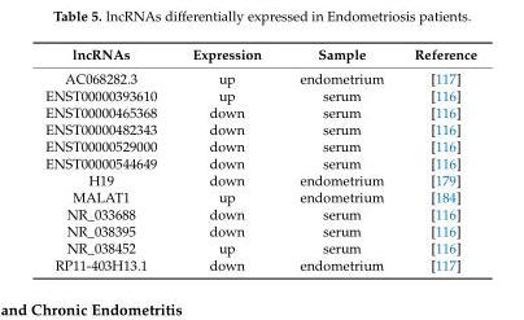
<table><thead><tr><td>lncRNAs</td><td>Expression</td><td>Sample</td><td>Reference</td></tr></thead><tbody><tr><td>AC068282.3</td><td>up</td><td>endometrium</td><td>[117]</td></tr><tr><td>ENST00000393610</td><td>up</td><td>serum</td><td>[116]</td></tr><tr><td>ENST00000465368</td><td>down</td><td>serum</td><td>[116]</td></tr><tr><td>ENST00000482343</td><td>down</td><td>serum</td><td>[116]</td></tr><tr><td>ENST00000529000</td><td>down</td><td>serum</td><td>[116]</td></tr><tr><td>ENST00000544649</td><td>down</td><td>serum</td><td>[116]</td></tr><tr><td>H19</td><td>down</td><td>endometrium</td><td>[179]</td></tr><tr><td>MALAT1</td><td>up</td><td>endometrium</td><td>[184]</td></tr><tr><td>NR_033688</td><td>down</td><td>serum</td><td>[116]</td></tr><tr><td>NR_038395</td><td>down</td><td>serum</td><td>[116]</td></tr><tr><td>NR_038452</td><td>up</td><td>serum</td><td>[116]</td></tr><tr><td>RP11-403H13.1</td><td>down</td><td>endometrium</td><td>[117]</td></tr></tbody></table>